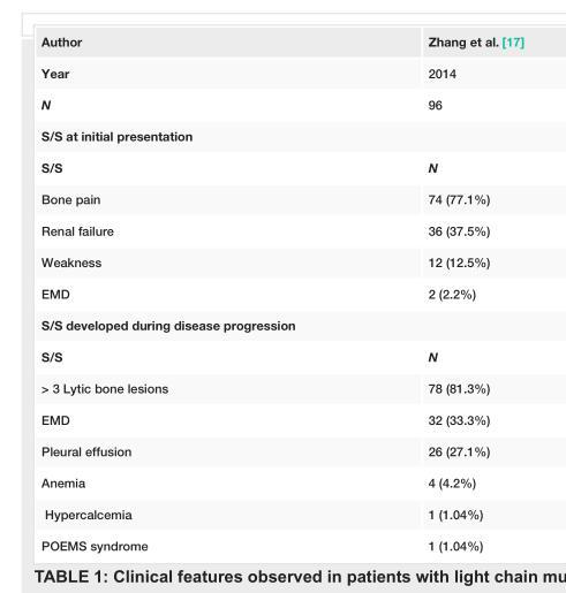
<table><tbody><tr><td>Author</td><td>Zhang et al. [17]</td></tr><tr><td>Year</td><td>2014</td></tr><tr><td>N</td><td>96</td></tr><tr><td colspan="2">S/S at initial presentation</td></tr><tr><td>S/S</td><td>N</td></tr><tr><td>Bone pain</td><td>74 (77.1%)</td></tr><tr><td>Renal failure</td><td>36 (37.5%)</td></tr><tr><td>Weakness</td><td>12 (12.5%)</td></tr><tr><td>EMD</td><td>2 (2.2%)</td></tr><tr><td colspan="2">S/S developed during disease progression</td></tr><tr><td>S/S</td><td>N</td></tr><tr><td>&gt; 3 Lytic bone lesions</td><td>78 (81.3%)</td></tr><tr><td>EMD</td><td>32 (33.3%)</td></tr><tr><td>Pleural effusion</td><td>26 (27.1%)</td></tr><tr><td>Anemia</td><td>4 (4.2%)</td></tr><tr><td>Hypercalcemia</td><td>1 (1.04%)</td></tr><tr><td>POEMS syndrome</td><td>1 (1.04%)</td></tr></tbody></table>